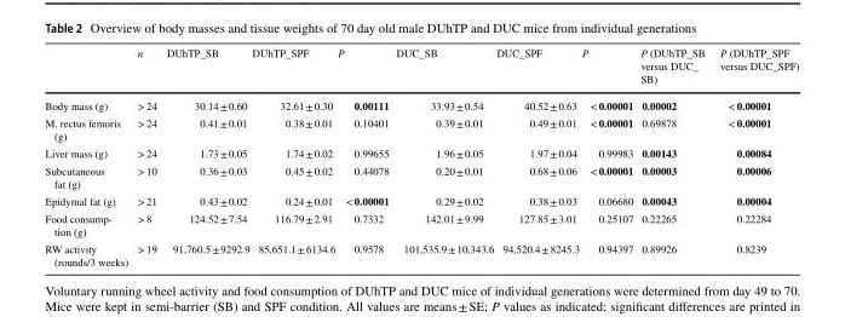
<table><thead><tr><td></td><td>n</td><td>DUhTP_SB</td><td>DUhTP_SPF</td><td>P</td><td>DUC_SB</td><td>DUC_SPF</td><td>P</td><td>P (DUhTP_SB versus DUC_ SB)</td><td>P (DUhTP_SPF versus DUC_SPF)</td></tr></thead><tbody><tr><td>Body mass (g)</td><td>&gt; 24</td><td>30.14 ± 0.60</td><td>32.61 ± 0.30</td><td>0.00111</td><td>33.93 ± 0.54</td><td>40.52 ± 0.63</td><td>&lt; 0.00001</td><td>0.00002</td><td>&lt; 0.00001</td></tr><tr><td>M. rectus femoris (g)</td><td>&gt; 24</td><td>0.41 ± 0.01</td><td>0.38 ± 0.01</td><td>0.10401</td><td>0.39 ± 0.01</td><td>0.49 ± 0.01</td><td>&lt; 0.00001</td><td>0.69878</td><td>&lt; 0.00001</td></tr><tr><td>Liver mass (g)</td><td>&gt; 24</td><td>1.73 ± 0.05</td><td>1.74 ± 0.02</td><td>0.99655</td><td>1.96 ± 0.05</td><td>1.97 ± 0.04</td><td>0.99983</td><td>0.00143</td><td>0.00084</td></tr><tr><td>Subcutaneous fat (g)</td><td>&gt; 10</td><td>0.36 ± 0.03</td><td>0.45 ± 0.02</td><td>0.44078</td><td>0.20 ± 0.01</td><td>0.68 ± 0.06</td><td>&lt; 0.00001</td><td>0.00003</td><td>0.00006</td></tr><tr><td>Epidymal fat (g)</td><td>&gt; 21</td><td>0.43 ± 0.02</td><td>0.24 ± 0.01</td><td>&lt; 0.00001</td><td>0.29 ± 0.02</td><td>0.38 ± 0.03</td><td>0.06680</td><td>0.00043</td><td>0.00004</td></tr><tr><td>Food consump- tion (g)</td><td>&gt; 8</td><td>124.52 ± 7.54</td><td>116.79 ± 2.91</td><td>0.7332</td><td>142.01 ± 9.99</td><td>127.85 ± 3.01</td><td>0.25107</td><td>0.22265</td><td>0.22284</td></tr><tr><td>RW activity (rounds/3 weeks)</td><td>&gt; 19</td><td>91,760.5 ± 9292.9</td><td>85,651.1 ± 6134.6</td><td>0.9578</td><td>101,535.9 ± 10,343.6</td><td>94,520.4 ± 8245.3</td><td>0.94397</td><td>0.89926</td><td>0.8239</td></tr></tbody></table>